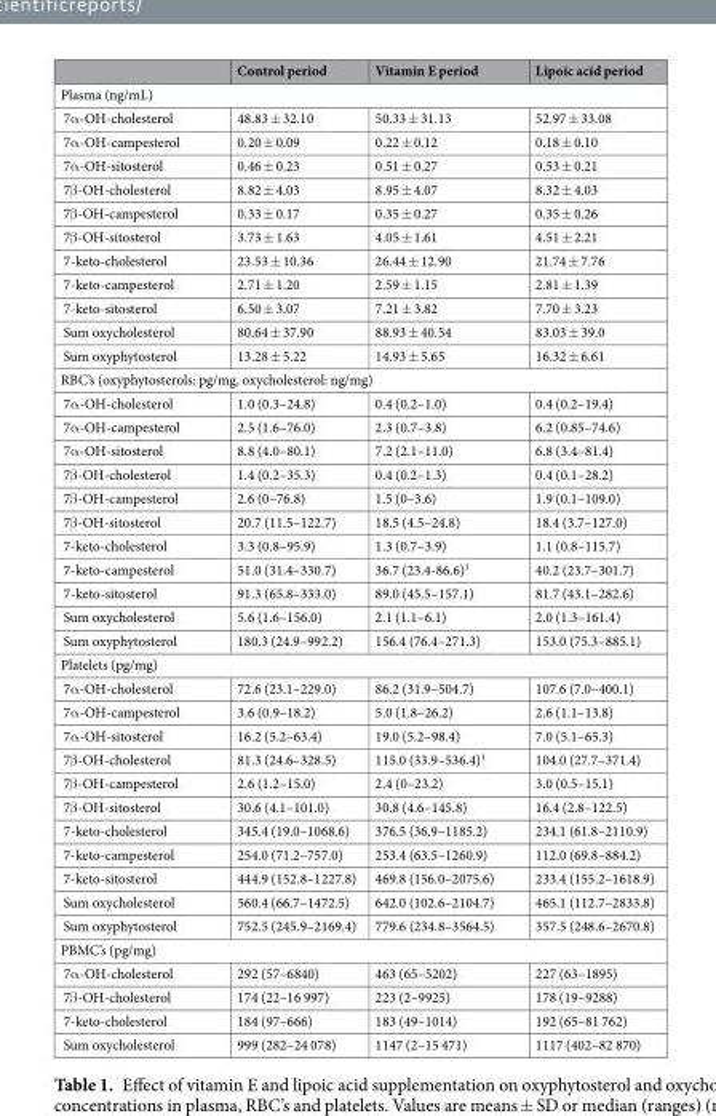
<table><thead><tr><td></td><td>Control period</td><td>Vitamin E period</td><td>Lipoic acid period</td></tr></thead><tbody><tr><td colspan="4">Plasma (ng/mL)</td></tr><tr><td>7α-OH-cholesterol</td><td>48.83 ± 32.10</td><td>50.33 ± 31.13</td><td>52.97 ± 33.08</td></tr><tr><td>7α-OH-campesterol</td><td>0.20 ± 0.09</td><td>0.22 ± 0.12</td><td>0.18 ± 0.10</td></tr><tr><td>7α-OH-sitosterol</td><td>0.46 ± 0.23</td><td>0.51 ± 0.27</td><td>0.53 ± 0.21</td></tr><tr><td>7β-OH-cholesterol</td><td>8.82 ± 4.03</td><td>8.95 ± 4.07</td><td>8.32 ± 4.03</td></tr><tr><td>7β-OH-campesterol</td><td>0.33 ± 0.17</td><td>0.35 ± 0.27</td><td>0.35 ± 0.26</td></tr><tr><td>7β-OH-sitosterol</td><td>3.73 ± 1.63</td><td>4.05 ± 1.61</td><td>4.51 ± 2.21</td></tr><tr><td>7-keto-cholesterol</td><td>23.53 ± 10.36</td><td>26.44 ± 12.90</td><td>21.74 ± 7.76</td></tr><tr><td>7-keto-campesterol</td><td>2.71 ± 1.20</td><td>2.59 ± 1.15</td><td>2.81 ± 1.39</td></tr><tr><td>7-keto-sitosterol</td><td>6.50 ± 3.07</td><td>7.21 ± 3.82</td><td>7.70 ± 3.23</td></tr><tr><td>Sum oxycholesterol</td><td>80.64 ± 37.90</td><td>88.93 ± 40.54</td><td>83.03 ± 39.0</td></tr><tr><td>Sum oxyphytosterol</td><td>13.28 ± 5.22</td><td>14.93 ± 5.65</td><td>16.32 ± 6.61</td></tr><tr><td colspan="4">RBC’s (oxyphytosterols: pg/mg, oxycholesterol: ng/mg)</td></tr><tr><td>7α-OH-cholesterol</td><td>1.0 (0.3–24.8)</td><td>0.4 (0.2–1.0)</td><td>0.4 (0.2–19.4)</td></tr><tr><td>7α-OH-campesterol</td><td>2.5 (1.6–76.0)</td><td>2.3 (0.7–3.8)</td><td>6.2 (0.85–74.6)</td></tr><tr><td>7α-OH-sitosterol</td><td>8.8 (4.0–80.1)</td><td>7.2 (2.1–11.0)</td><td>6.8 (3.4–81.4)</td></tr><tr><td>7β-OH-cholesterol</td><td>1.4 (0.2–35.3)</td><td>0.4 (0.2–1.3)</td><td>0.4 (0.1–28.2)</td></tr><tr><td>7β-OH-campesterol</td><td>2.6 (0–76.8)</td><td>1.5 (0–3.6)</td><td>1.9 (0.1–109.0)</td></tr><tr><td>7β-OH-sitosterol</td><td>20.7 (11.5–122.7)</td><td>18.5 (4.5–24.8)</td><td>18.4 (3.7–127.0)</td></tr><tr><td>7-keto-cholesterol</td><td>3.3 (0.8–95.9)</td><td>1.3 (0.7–3.9)</td><td>1.1 (0.8–115.7)</td></tr><tr><td>7-keto-campesterol</td><td>51.0 (31.4–330.7)</td><td>36.7 (23.4-86.6)<sup>1</sup></td><td>40.2 (23.7–301.7)</td></tr><tr><td>7-keto-sitosterol</td><td>91.3 (65.8–333.0)</td><td>89.0 (45.5–157.1)</td><td>81.7 (43.1–282.6)</td></tr><tr><td>Sum oxycholesterol</td><td>5.6 (1.6–156.0)</td><td>2.1 (1.1–6.1)</td><td>2.0 (1.3–161.4)</td></tr><tr><td>Sum oxyphytosterol</td><td>180.3 (24.9–992.2)</td><td>156.4 (76.4–271.3)</td><td>153.0 (75.3–885.1)</td></tr><tr><td colspan="4">Platelets (pg/mg)</td></tr><tr><td>7α-OH-cholesterol</td><td>72.6 (23.1–229.0)</td><td>86.2 (31.9–504.7)</td><td>107.6 (7.0–400.1)</td></tr><tr><td>7α-OH-campesterol</td><td>3.6 (0.9–18.2)</td><td>5.0 (1.8–26.2)</td><td>2.6 (1.1–13.8)</td></tr><tr><td>7α-OH-sitosterol</td><td>16.2 (5.2–63.4)</td><td>19.0 (5.2–98.4)</td><td>7.0 (5.1–65.3)</td></tr><tr><td>7β-OH-cholesterol</td><td>81.3 (24.6–328.5)</td><td>115.0 (33.9–536.4)<sup>1</sup></td><td>104.0 (27.7–371.4)</td></tr><tr><td>7β-OH-campesterol</td><td>2.6 (1.2–15.0)</td><td>2.4 (0–23.2)</td><td>3.0 (0.5–15.1)</td></tr><tr><td>7β-OH-sitosterol</td><td>30.6 (4.1–101.0)</td><td>30.8 (4.6–145.8)</td><td>16.4 (2.8–122.5)</td></tr><tr><td>7-keto-cholesterol</td><td>345.4 (19.0–1068.6)</td><td>376.5 (36.9–1185.2)</td><td>234.1 (61.8–2110.9)</td></tr><tr><td>7-keto-campesterol</td><td>254.0 (71.2–757.0)</td><td>253.4 (63.5–1260.9)</td><td>112.0 (69.8–884.2)</td></tr><tr><td>7-keto-sitosterol</td><td>444.9 (152.8–1227.8)</td><td>469.8 (156.0–2075.6)</td><td>233.4 (155.2–1618.9)</td></tr><tr><td>Sum oxycholesterol</td><td>560.4 (66.7–1472.5)</td><td>642.0 (102.6–2104.7)</td><td>465.1 (112.7–2833.8)</td></tr><tr><td>Sum oxyphytosterol</td><td>752.5 (245.9–2169.4)</td><td>779.6 (234.8–3564.5)</td><td>357.5 (248.6–2670.8)</td></tr><tr><td colspan="4">PBMC’s (pg/mg)</td></tr><tr><td>7α-OH-cholesterol</td><td>292 (57–6840)</td><td>463 (65–5202)</td><td>227 (63–1895)</td></tr><tr><td>7β-OH-cholesterol</td><td>174 (22–16 997)</td><td>223 (2–9925)</td><td>178 (19–9288)</td></tr><tr><td>7-keto-cholesterol</td><td>184 (97–666)</td><td>183 (49–1014)</td><td>192 (65–81 762)</td></tr><tr><td>Sum oxycholesterol</td><td>999 (282–24 078)</td><td>1147 (2–15 471)</td><td>1117 (402–82 870)</td></tr></tbody></table>